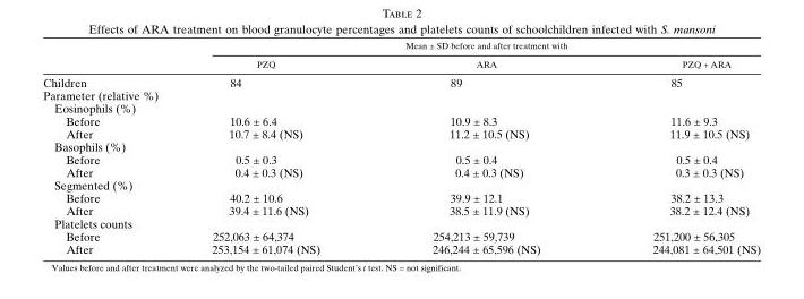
<table><thead><tr><td rowspan="2"></td><td colspan="3">Mean ± SD before and after treatment with</td></tr><tr><td>PZQ</td><td>ARA</td><td>PZQ + ARA</td></tr></thead><tbody><tr><td>Children</td><td>84</td><td>89</td><td>85</td></tr><tr><td colspan="4">Parameter (relative %)</td></tr><tr><td colspan="4">Eosinophils (%)</td></tr><tr><td>Before</td><td>10.6 ± 6.4</td><td>10.9 ± 8.3</td><td>11.6 ± 9.3</td></tr><tr><td>After</td><td>10.7 ± 8.4 (NS)</td><td>11.2 ± 10.5 (NS)</td><td>11.9 ± 10.5 (NS)</td></tr><tr><td colspan="4">Basophils (%)</td></tr><tr><td>Before</td><td>0.5 ± 0.3</td><td>0.5 ± 0.4</td><td>0.5 ± 0.4</td></tr><tr><td>After</td><td>0.4 ± 0.3 (NS)</td><td>0.4 ± 0.3 (NS)</td><td>0.3 ± 0.3 (NS)</td></tr><tr><td colspan="4">Segmented (%)</td></tr><tr><td>Before</td><td>40.2 ± 10.6</td><td>39.9 ± 12.1</td><td>38.2 ± 13.3</td></tr><tr><td>After</td><td>39.4 ± 11.6 (NS)</td><td>38.5 ± 11.9 (NS)</td><td>38.2 ± 12.4 (NS)</td></tr><tr><td colspan="4">Platelets counts</td></tr><tr><td>Before</td><td>252,063 ± 64,374</td><td>254,213 ± 59,739</td><td>251,200 ± 56,305</td></tr><tr><td>After</td><td>253,154 ± 61,074 (NS)</td><td>246,244 ± 65,596 (NS)</td><td>244,081 ± 64,501 (NS)</td></tr></tbody></table>